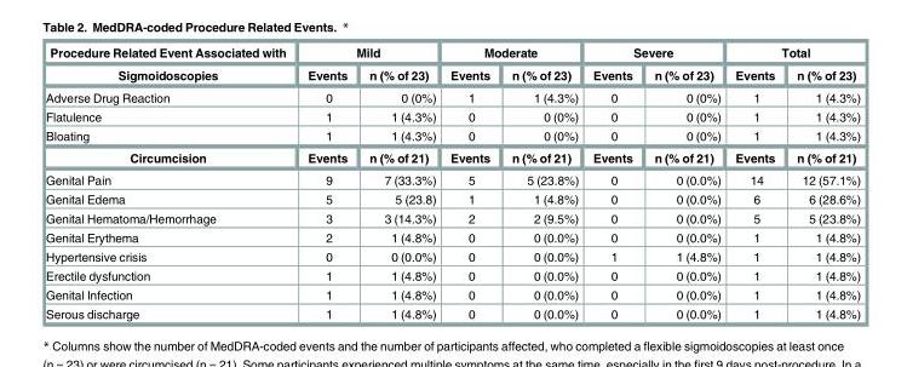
<table><thead><tr><td rowspan="2">Procedure Related Event Associated with Sigmoidoscopies</td><td colspan="2">Mild</td><td colspan="2">Moderate</td><td colspan="2">Severe</td><td colspan="2">Total</td></tr><tr><td>Events</td><td>n (% of 23)</td><td>Events</td><td>n (% of 23)</td><td>Events</td><td>n (% of 23)</td><td>Events</td><td>n (% of 23)</td></tr></thead><tbody><tr><td>Adverse Drug Reaction</td><td>0</td><td>0 (0%)</td><td>1</td><td>1 (4.3%)</td><td>0</td><td>0 (0%)</td><td>1</td><td>1 (4.3%)</td></tr><tr><td>Flatulence</td><td>1</td><td>1 (4.3%)</td><td>0</td><td>0 (0%)</td><td>0</td><td>0 (0%)</td><td>1</td><td>1 (4.3%)</td></tr><tr><td>Bloating</td><td>1</td><td>1 (4.3%)</td><td>0</td><td>0 (0%)</td><td>0</td><td>0 (0%)</td><td>1</td><td>1 (4.3%)</td></tr><tr><td>Circumcision</td><td>Events</td><td>n (% of 21)</td><td>Events</td><td>n (% of 21)</td><td>Events</td><td>n (% of 21)</td><td>Events</td><td>n (% of 21)</td></tr><tr><td>Genital Pain</td><td>9</td><td>7 (33.3%)</td><td>5</td><td>5 (23.8%)</td><td>0</td><td>0 (0.0%)</td><td>14</td><td>12 (57.1%)</td></tr><tr><td>Genital Edema</td><td>5</td><td>5 (23.8)</td><td>1</td><td>1 (4.8%)</td><td>0</td><td>0 (0.0%)</td><td>6</td><td>6 (28.6%)</td></tr><tr><td>Genital Hematoma/Hemorrhage</td><td>3</td><td>3 (14.3%)</td><td>2</td><td>2 (9.5%)</td><td>0</td><td>0 (0.0%)</td><td>5</td><td>5 (23.8%)</td></tr><tr><td>Genital Erythema</td><td>2</td><td>1 (4.8%)</td><td>0</td><td>0 (0.0%)</td><td>0</td><td>0 (0.0%)</td><td>1</td><td>1 (4.8%)</td></tr><tr><td>Hypertensive crisis</td><td>0</td><td>0 (0.0%)</td><td>0</td><td>0 (0.0%)</td><td>1</td><td>1 (4.8%)</td><td>1</td><td>1 (4.8%)</td></tr><tr><td>Erectile dysfunction</td><td>1</td><td>1 (4.8%)</td><td>0</td><td>0 (0.0%)</td><td>0</td><td>0 (0.0%)</td><td>1</td><td>1 (4.8%)</td></tr><tr><td>Genital Infection</td><td>1</td><td>1 (4.8%)</td><td>0</td><td>0 (0.0%)</td><td>0</td><td>0 (0.0%)</td><td>1</td><td>1 (4.8%)</td></tr><tr><td>Serous discharge</td><td>1</td><td>1 (4.8%)</td><td>0</td><td>0 (0.0%)</td><td>0</td><td>0 (0.0%)</td><td>1</td><td>1 (4.8%)</td></tr></tbody></table>